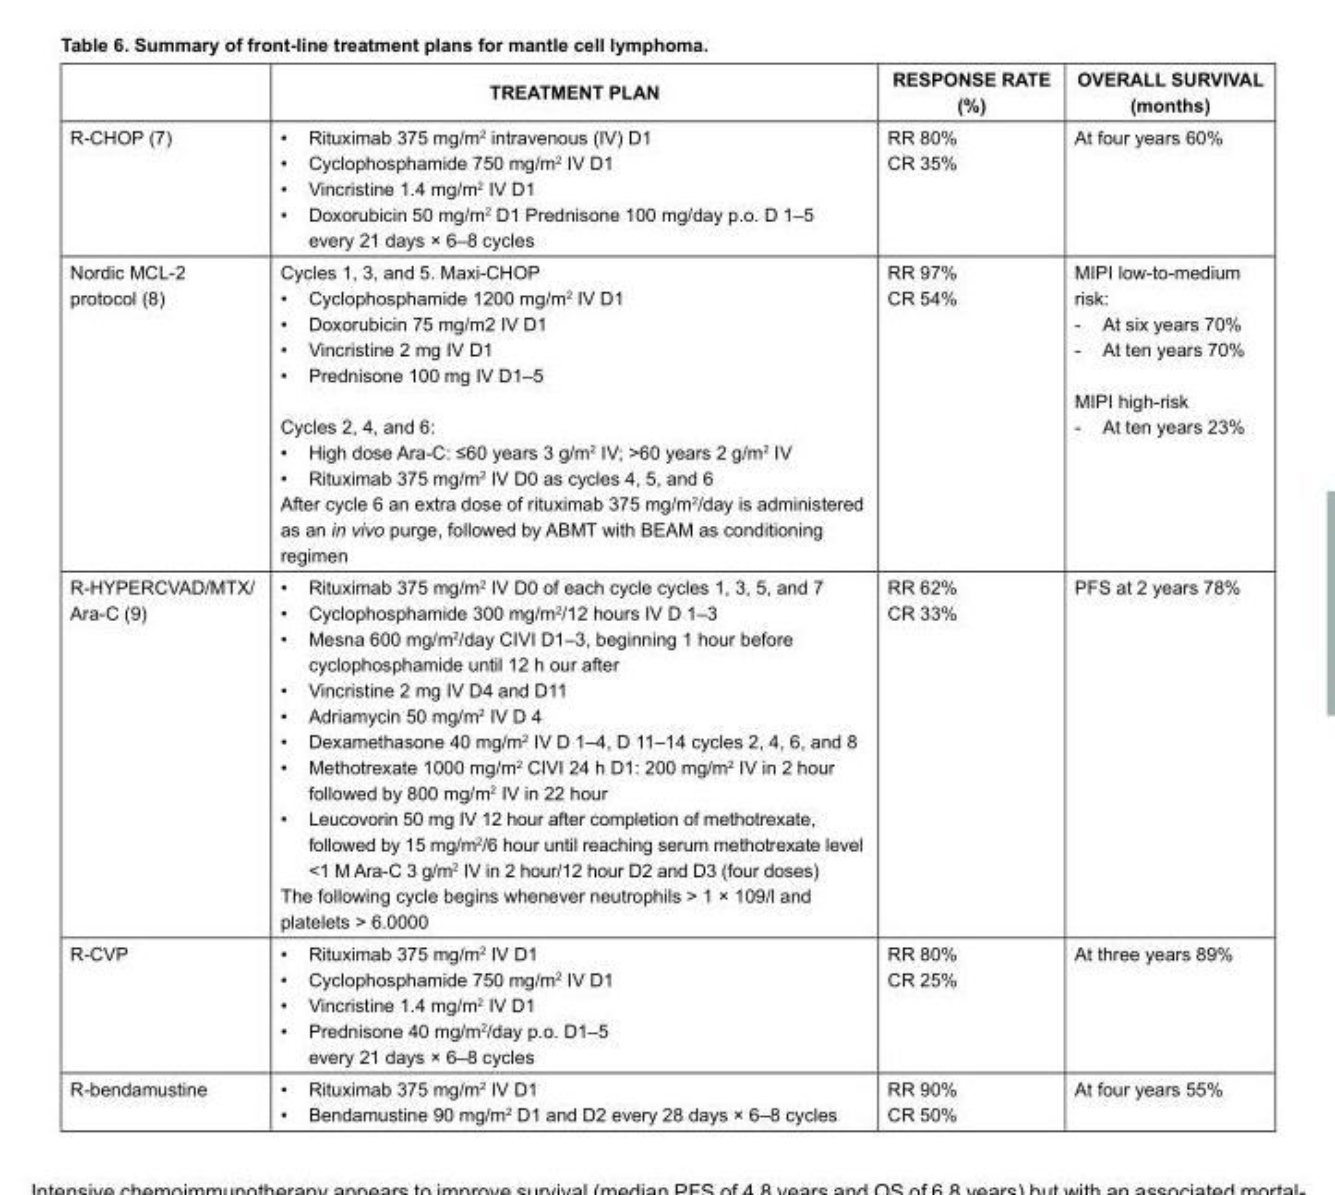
<table><thead><tr><td></td><td>TREATMENT PLAN</td><td>RESPONSE RATE (%)</td><td>OVERALL SURVIVAL (months)</td></tr></thead><tbody><tr><td>R-CHOP (7)</td><td>Rituximab 375 mg/m • 2 intravenous (IV) D1 Cyclophosphamide 750 mg/m • 2 IV D1 Vincristine 1.4 mg/m • 2 IV D1 Doxorubicin 50 mg/m • 2 D1 Prednisone 100 mg/day p.o. D 1–5 every 21 days × 6–8 cycles</td><td>RR 80% CR 35%</td><td>At four years 60%</td></tr><tr><td>Nordic MCL-2 protocol (8)</td><td>Cycles 1, 3, and 5. Maxi-CHOP Cyclophosphamide 1200 mg/m • 2 IV D1 Doxorubicin 75 mg/m2 IV D1 • Vincristine 2 mg IV D1 • Prednisone 100 mg IV D1–5 • Cycles 2, 4, and 6: High dose Ara-C: ≤60 years 3 g/m • 2 IV; &gt;60 years 2 g/m2 IV Rituximab 375 mg/m • 2 IV D0 as cycles 4, 5, and 6 After cycle 6 an extra dose of rituximab 375 mg/m2/day is administered as an in vivo purge, followed by ABMT with BEAM as conditioning regimen</td><td>RR 97% CR 54%</td><td>MIPI low-to-medium risk: At six years 70% - At ten years 70% - MIPI high-risk At ten years 23% -</td></tr><tr><td>R-HYPERCVAD/MTX/ Ara-C (9)</td><td>Rituximab 375 mg/m • 2 IV D0 of each cycle cycles 1, 3, 5, and 7 Cyclophosphamide 300 mg/m • 2/12 hours IV D 1–3 Mesna 600 mg/m • 2/day CIVI D1–3, beginning 1 hour before cyclophosphamide until 12 h our after Vincristine 2 mg IV D4 and D11 • Adriamycin 50 mg/m • 2 IV D 4 Dexamethasone 40 mg/m • 2 IV D 1–4, D 11–14 cycles 2, 4, 6, and 8 Methotrexate 1000 mg/m • 2 CIVI 24 h D1: 200 mg/m2 IV in 2 hour followed by 800 mg/m2 IV in 22 hour Leucovorin 50 mg IV 12 hour after completion of methotrexate, • followed by 15 mg/m2/6 hour until reaching serum methotrexate level &lt;1 M Ara-C 3 g/m2 IV in 2 hour/12 hour D2 and D3 (four doses) The following cycle begins whenever neutrophils &gt; 1 × 109/l and platelets &gt; 6.0000</td><td>RR 62% CR 33%</td><td>PFS at 2 years 78%</td></tr><tr><td>R-CVP</td><td>Rituximab 375 mg/m • 2 IV D1 Cyclophosphamide 750 mg/m • 2 IV D1 Vincristine 1.4 mg/m • 2 IV D1 Prednisone 40 mg/m • 2/day p.o. D1–5 every 21 days × 6–8 cycles</td><td>RR 80% CR 25%</td><td>At three years 89%</td></tr><tr><td>R-bendamustine</td><td>Rituximab 375 mg/m • 2 IV D1 Bendamustine 90 mg/m • 2 D1 and D2 every 28 days × 6–8 cycles</td><td>RR 90% CR 50%</td><td>At four years 55%</td></tr></tbody></table>